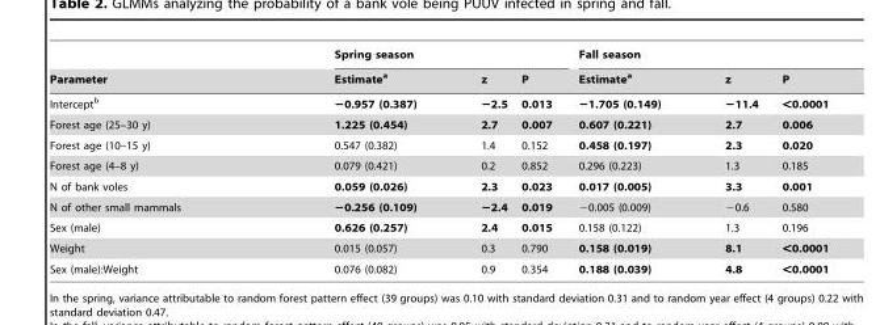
<table><thead><tr><td rowspan="2">Parameter</td><td colspan="3">Spring season</td><td colspan="3">Fall season</td></tr><tr><td>Estimate<sup>a</sup></td><td>z</td><td>P</td><td>Estimate<sup>a</sup></td><td>z</td><td>P</td></tr></thead><tbody><tr><td>Intercept<sup>b</sup></td><td>−0.957 (0.387)</td><td>−2.5</td><td>0.013</td><td>−1.705 (0.149)</td><td>−11.4</td><td>&lt;0.0001</td></tr><tr><td>Forest age (25–30 y)</td><td>1.225 (0.454)</td><td>2.7</td><td>0.007</td><td>0.607 (0.221)</td><td>2.7</td><td>0.006</td></tr><tr><td>Forest age (10–15 y)</td><td>0.547 (0.382)</td><td>1.4</td><td>0.152</td><td>0.458 (0.197)</td><td>2.3</td><td>0.020</td></tr><tr><td>Forest age (4–8 y)</td><td>0.079 (0.421)</td><td>0.2</td><td>0.852</td><td>0.296 (0.223)</td><td>1.3</td><td>0.185</td></tr><tr><td>N of bank voles</td><td>0.059 (0.026)</td><td>2.3</td><td>0.023</td><td>0.017 (0.005)</td><td>3.3</td><td>0.001</td></tr><tr><td>N of other small mammals</td><td>−0.256 (0.109)</td><td>−2.4</td><td>0.019</td><td>−0.005 (0.009)</td><td>−0.6</td><td>0.580</td></tr><tr><td>Sex (male)</td><td>0.626 (0.257)</td><td>2.4</td><td>0.015</td><td>0.158 (0.122)</td><td>1.3</td><td>0.196</td></tr><tr><td>Weight</td><td>0.015 (0.057)</td><td>0.3</td><td>0.790</td><td>0.158 (0.019)</td><td>8.1</td><td>&lt;0.0001</td></tr><tr><td>Sex (male):Weight</td><td>0.076 (0.082)</td><td>0.9</td><td>0.354</td><td>0.188 (0.039)</td><td>4.8</td><td>&lt;0.0001</td></tr></tbody></table>